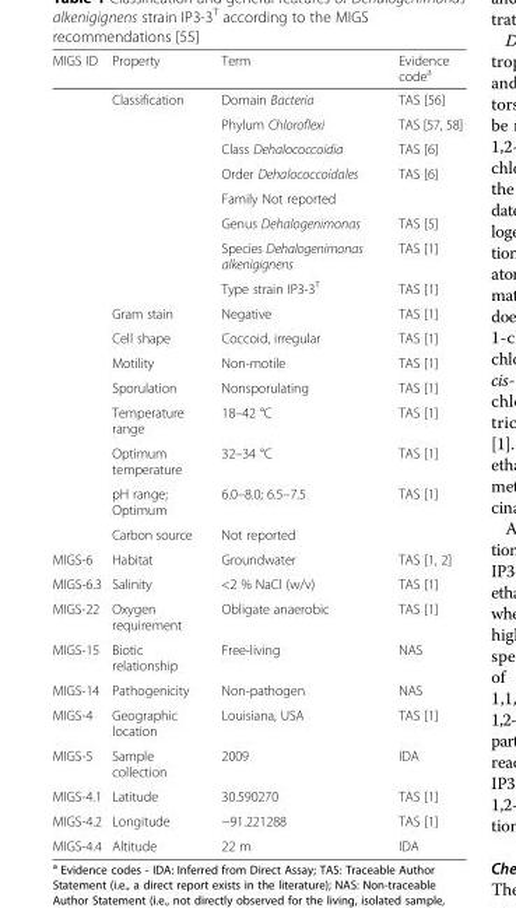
<table><thead><tr><td>MIGS ID</td><td>Property</td><td>Term</td><td>Evidence code<sup>a</sup></td></tr></thead><tbody><tr><td></td><td>Classification</td><td>Domain Bacteria</td><td>TAS [56]</td></tr><tr><td></td><td></td><td>Phylum Chloroflexi</td><td>TAS [57, 58]</td></tr><tr><td></td><td></td><td>Class Dehalococcoidia</td><td>TAS [6]</td></tr><tr><td></td><td></td><td>Order Dehalococcoidales</td><td>TAS [6]</td></tr><tr><td></td><td></td><td>Family Not reported</td><td></td></tr><tr><td></td><td></td><td>Genus Dehalogenimonas</td><td>TAS [5]</td></tr><tr><td></td><td></td><td>Species Dehalogenimonas alkenigignens</td><td>TAS [1]</td></tr><tr><td></td><td></td><td>Type strain IP3-3<sup>T</sup></td><td>TAS [1]</td></tr><tr><td></td><td>Gram stain</td><td>Negative</td><td>TAS [1]</td></tr><tr><td></td><td>Cell shape</td><td>Coccoid, irregular</td><td>TAS [1]</td></tr><tr><td></td><td>Motility</td><td>Non-motile</td><td>TAS [1]</td></tr><tr><td></td><td>Sporulation</td><td>Nonsporulating</td><td>TAS [1]</td></tr><tr><td></td><td>Temperature range</td><td>18–42 °C</td><td>TAS [1]</td></tr><tr><td></td><td>Optimum temperature</td><td>32–34 °C</td><td>TAS [1]</td></tr><tr><td></td><td>pH range; Optimum</td><td>6.0–8.0; 6.5–7.5</td><td>TAS [1]</td></tr><tr><td></td><td>Carbon source</td><td>Not reported</td><td></td></tr><tr><td>MIGS-6</td><td>Habitat</td><td>Groundwater</td><td>TAS [1, 2]</td></tr><tr><td>MIGS-6.3</td><td>Salinity</td><td>&lt;2 % NaCl (w/v)</td><td>TAS [1]</td></tr><tr><td>MIGS-22</td><td>Oxygen requirement</td><td>Obligate anaerobic</td><td>TAS [1]</td></tr><tr><td>MIGS-15</td><td>Biotic relationship</td><td>Free-living</td><td>NAS</td></tr><tr><td>MIGS-14</td><td>Pathogenicity</td><td>Non-pathogen</td><td>NAS</td></tr><tr><td>MIGS-4</td><td>Geographic location</td><td>Louisiana, USA</td><td>TAS [1]</td></tr><tr><td>MIGS-5</td><td>Sample collection</td><td>2009</td><td>IDA</td></tr><tr><td>MIGS-4.1</td><td>Latitude</td><td>30.590270</td><td>TAS [1]</td></tr><tr><td>MIGS-4.2</td><td>Longitude</td><td>−91.221288</td><td>TAS [1]</td></tr><tr><td>MIGS-4.4</td><td>Altitude</td><td>22 m</td><td>IDA</td></tr></tbody></table>